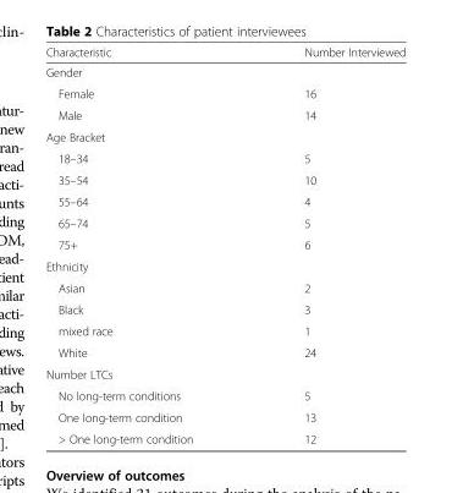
<table><thead><tr><td>Characteristic</td><td>Number Interviewed</td></tr></thead><tbody><tr><td colspan="2">Gender</td></tr><tr><td>Female</td><td>16</td></tr><tr><td>Male</td><td>14</td></tr><tr><td colspan="2">Age Bracket</td></tr><tr><td>18–34</td><td>5</td></tr><tr><td>35–54</td><td>10</td></tr><tr><td>55–64</td><td>4</td></tr><tr><td>65–74</td><td>5</td></tr><tr><td>75+</td><td>6</td></tr><tr><td colspan="2">Ethnicity</td></tr><tr><td>Asian</td><td>2</td></tr><tr><td>Black</td><td>3</td></tr><tr><td>mixed race</td><td>1</td></tr><tr><td>White</td><td>24</td></tr><tr><td colspan="2">Number LTCs</td></tr><tr><td>No long-term conditions</td><td>5</td></tr><tr><td>One long-term condition</td><td>13</td></tr><tr><td>&gt; One long-term condition</td><td>12</td></tr></tbody></table>